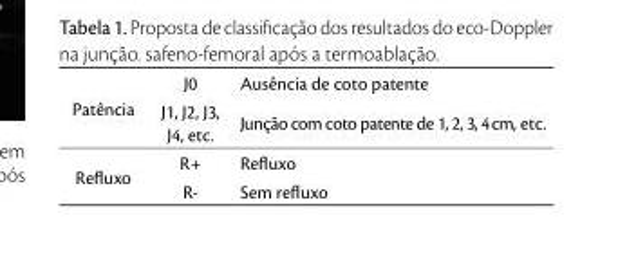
<table><tbody><tr><td rowspan="2">Patência</td><td>J0</td><td>Ausência de coto patente</td></tr><tr><td>J1, J2, J3, J4, etc.</td><td>Junção com coto patente de 1, 2, 3, 4 cm, etc.</td></tr><tr><td rowspan="2">Refluxo</td><td>R+</td><td>Refluxo</td></tr><tr><td>R-</td><td>Sem refluxo</td></tr></tbody></table>